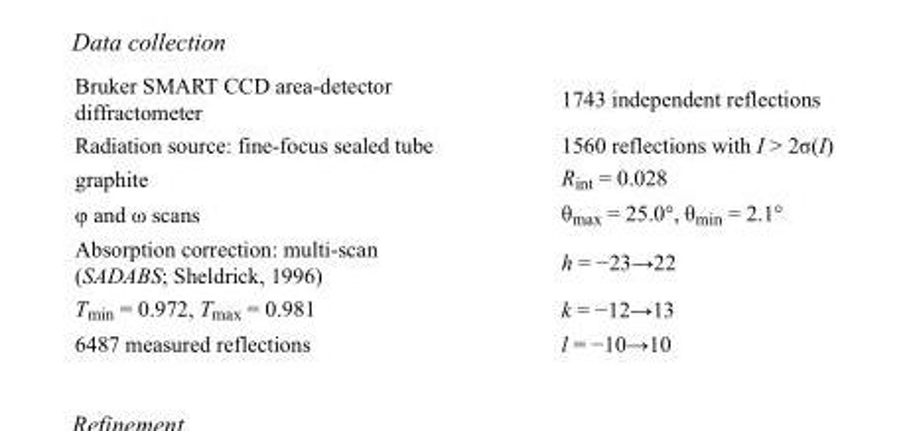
<table><tbody><tr><td>Bruker SMART CCD area-detector diffractometer</td><td>1743 independent reflections</td></tr><tr><td>Radiation source: fine-focus sealed tube</td><td>1560 reflections with I &gt; 2σ(I)</td></tr><tr><td>graphite</td><td>R<sub>int</sub> = 0.028</td></tr><tr><td>φ and ω scans</td><td>θ<sub>max</sub> = 25.0°, θ<sub>min</sub> = 2.1°</td></tr><tr><td>Absorption correction: multi-scan (SADABS; Sheldrick, 1996)</td><td>h = −23→22</td></tr><tr><td>T<sub>min</sub> = 0.972, T<sub>max</sub> = 0.981</td><td>k = −12→13</td></tr><tr><td>6487 measured reflections</td><td>l = −10→10</td></tr></tbody></table>